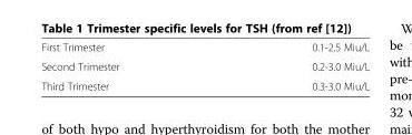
<table><tbody><tr><td>First Trimester</td><td>0.1-2.5 Miu/L</td></tr><tr><td>Second Trimester</td><td>0.2-3.0 Miu/L</td></tr><tr><td>Third Trimester</td><td>0.3-3.0 Miu/L</td></tr></tbody></table>